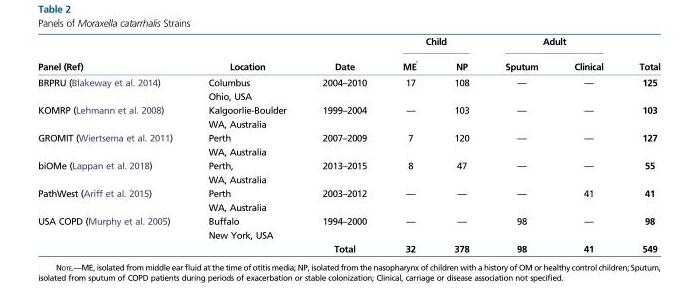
<table><thead><tr><td rowspan="2">Panel (Ref)</td><td rowspan="2">Location</td><td rowspan="2">Date</td><td colspan="2">Child</td><td colspan="2">Adult</td><td rowspan="2">Total</td></tr><tr><td>MEˆ</td><td>NP</td><td>Sputum</td><td>Clinical</td></tr></thead><tbody><tr><td rowspan="2">BRPRU (Blakeway et al. 2014)</td><td>Columbus</td><td rowspan="2">2004–2010</td><td rowspan="2">17</td><td rowspan="2">108</td><td rowspan="2">—</td><td rowspan="2">—</td><td rowspan="2">125</td></tr><tr><td>Ohio, USA</td></tr><tr><td rowspan="2">KOMRP (Lehmann et al. 2008)</td><td>Kalgoorlie-Boulder</td><td rowspan="2">1999–2004</td><td rowspan="2">—</td><td rowspan="2">103</td><td rowspan="2">—</td><td rowspan="2">—</td><td rowspan="2">103</td></tr><tr><td>WA, Australia</td></tr><tr><td rowspan="2">GROMIT (Wiertsema et al. 2011)</td><td>Perth</td><td rowspan="2">2007–2009</td><td rowspan="2">7</td><td rowspan="2">120</td><td rowspan="2">—</td><td rowspan="2">—</td><td rowspan="2">127</td></tr><tr><td>WA, Australia</td></tr><tr><td rowspan="2">biOMe (Lappan et al. 2018)</td><td>Perth,</td><td rowspan="2">2013–2015</td><td rowspan="2">8</td><td rowspan="2">47</td><td rowspan="2">—</td><td rowspan="2">—</td><td rowspan="2">55</td></tr><tr><td>WA, Australia</td></tr><tr><td rowspan="2">PathWest (Ariff et al. 2015)</td><td>Perth</td><td rowspan="2">2003–2012</td><td rowspan="2">—</td><td rowspan="2">—</td><td rowspan="2">—</td><td rowspan="2">41</td><td rowspan="2">41</td></tr><tr><td>WA, Australia</td></tr><tr><td rowspan="3">USA COPD (Murphy et al. 2005)</td><td>Buffalo</td><td rowspan="2">1994–2000</td><td rowspan="2">—</td><td rowspan="2">—</td><td rowspan="2">98</td><td rowspan="2">—</td><td rowspan="2">98</td></tr><tr><td>New York, USA</td></tr><tr><td></td><td>Total</td><td>32</td><td>378</td><td>98</td><td>41</td><td>549</td></tr></tbody></table>